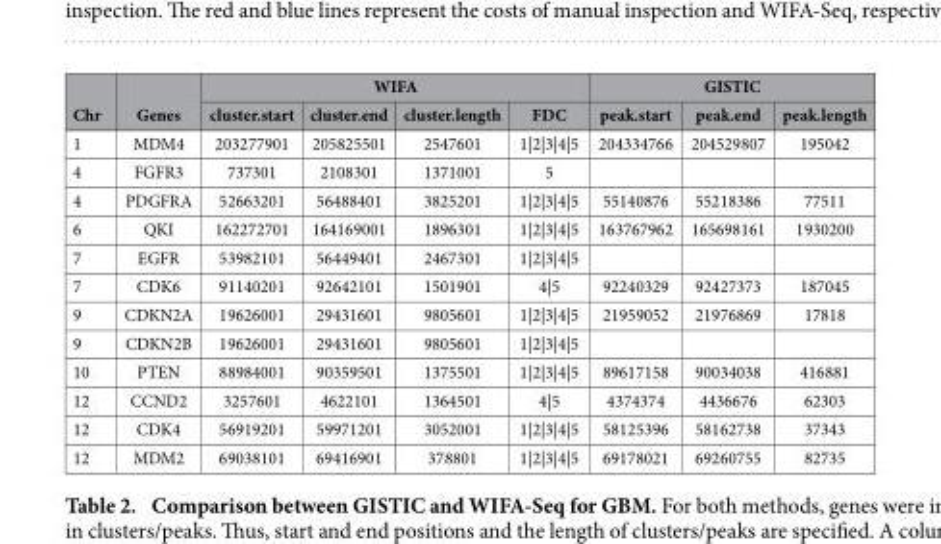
<table><thead><tr><td rowspan="2">Chr</td><td rowspan="2">Genes</td><td colspan="4">WIFA</td><td colspan="3">GISTIC</td></tr><tr><td>cluster.start</td><td>cluster.end</td><td>cluster.length</td><td>FDC</td><td>peak.start</td><td>peak.end</td><td>peak.length</td></tr></thead><tbody><tr><td>1</td><td>MDM4</td><td>203277901</td><td>205825501</td><td>2547601</td><td>1|2|3|4|5</td><td>204334766</td><td>204529807</td><td>195042</td></tr><tr><td>4</td><td>FGFR3</td><td>737301</td><td>2108301</td><td>1371001</td><td>5</td><td></td><td></td><td></td></tr><tr><td>4</td><td>PDGFRA</td><td>52663201</td><td>56488401</td><td>3825201</td><td>1|2|3|4|5</td><td>55140876</td><td>55218386</td><td>77511</td></tr><tr><td>6</td><td>QKI</td><td>162272701</td><td>164169001</td><td>1896301</td><td>1|2|3|4|5</td><td>163767962</td><td>165698161</td><td>1930200</td></tr><tr><td>7</td><td>EGFR</td><td>53982101</td><td>56449401</td><td>2467301</td><td>1|2|3|4|5</td><td></td><td></td><td></td></tr><tr><td>7</td><td>CDK6</td><td>91140201</td><td>92642101</td><td>1501901</td><td>4|5</td><td>92240329</td><td>92427373</td><td>187045</td></tr><tr><td>9</td><td>CDKN2A</td><td>19626001</td><td>29431601</td><td>9805601</td><td>1|2|3|4|5</td><td>21959052</td><td>21976869</td><td>17818</td></tr><tr><td>9</td><td>CDKN2B</td><td>19626001</td><td>29431601</td><td>9805601</td><td>1|2|3|4|5</td><td></td><td></td><td></td></tr><tr><td>10</td><td>PTEN</td><td>88984001</td><td>90359501</td><td>1375501</td><td>1|2|3|4|5</td><td>89617158</td><td>90034038</td><td>416881</td></tr><tr><td>12</td><td>CCND2</td><td>3257601</td><td>4622101</td><td>1364501</td><td>4|5</td><td>4374374</td><td>4436676</td><td>62303</td></tr><tr><td>12</td><td>CDK4</td><td>56919201</td><td>59971201</td><td>3052001</td><td>1|2|3|4|5</td><td>58125396</td><td>58162738</td><td>37343</td></tr><tr><td>12</td><td>MDM2</td><td>69038101</td><td>69416901</td><td>378801</td><td>1|2|3|4|5</td><td>69178021</td><td>69260755</td><td>82735</td></tr></tbody></table>